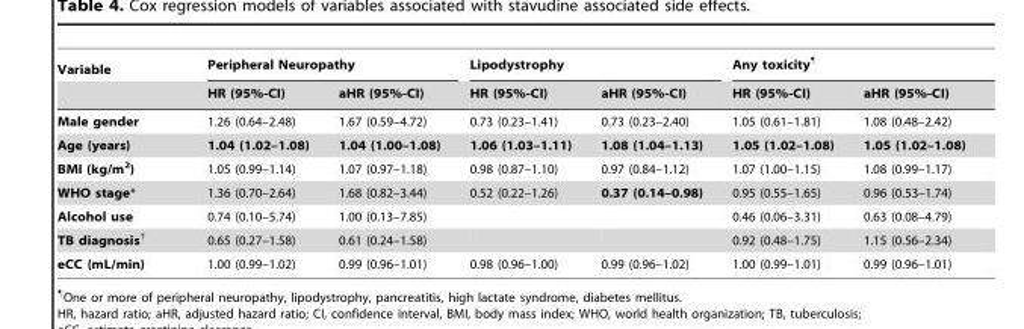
<table><thead><tr><td rowspan="2">Variable</td><td colspan="2">Peripheral Neuropathy</td><td colspan="2">Lipodystrophy</td><td colspan="2">Any toxicity¶</td></tr><tr><td>HR (95%-CI)</td><td>aHR (95%-CI)</td><td>HR (95%-CI)</td><td>aHR (95%-CI)</td><td>HR (95%-CI)</td><td>aHR (95%-CI)</td></tr></thead><tbody><tr><td>Male gender</td><td>1.26 (0.64–2.48)</td><td>1.67 (0.59–4.72)</td><td>0.73 (0.23–1.41)</td><td>0.73 (0.23–2.40)</td><td>1.05 (0.61–1.81)</td><td>1.08 (0.48–2.42)</td></tr><tr><td>Age (years)</td><td>1.04 (1.02–1.08)</td><td>1.04 (1.00–1.08)</td><td>1.06 (1.03–1.11)</td><td>1.08 (1.04–1.13)</td><td>1.05 (1.02–1.08)</td><td>1.05 (1.02–1.08)</td></tr><tr><td>BMI (kg/m<sup>2</sup>)</td><td>1.05 (0.99–1.14)</td><td>1.07 (0.97–1.18)</td><td>0.98 (0.87–1.10)</td><td>0.97 (0.84–1.12)</td><td>1.07 (1.00–1.15)</td><td>1.08 (0.99–1.17)</td></tr><tr><td>WHO stage*</td><td>1.36 (0.70–2.64)</td><td>1.68 (0.82–3.44)</td><td>0.52 (0.22–1.26)</td><td>0.37 (0.14–0.98)</td><td>0.95 (0.55–1.65)</td><td>0.96 (0.53–1.74)</td></tr><tr><td>Alcohol use</td><td>0.74 (0.10–5.74)</td><td>1.00 (0.13–7.85)</td><td></td><td></td><td>0.46 (0.06–3.31)</td><td>0.63 (0.08–4.79)</td></tr><tr><td>TB diagnosis†</td><td>0.65 (0.27–1.58)</td><td>0.61 (0.24–1.58)</td><td></td><td></td><td>0.92 (0.48–1.75)</td><td>1.15 (0.56–2.34)</td></tr><tr><td>eCC (mL/min)</td><td>1.00 (0.99–1.02)</td><td>0.99 (0.96–1.01)</td><td>0.98 (0.96–1.00)</td><td>0.99 (0.96–1.02)</td><td>1.00 (0.99–1.01)</td><td>0.99 (0.96–1.01)</td></tr></tbody></table>